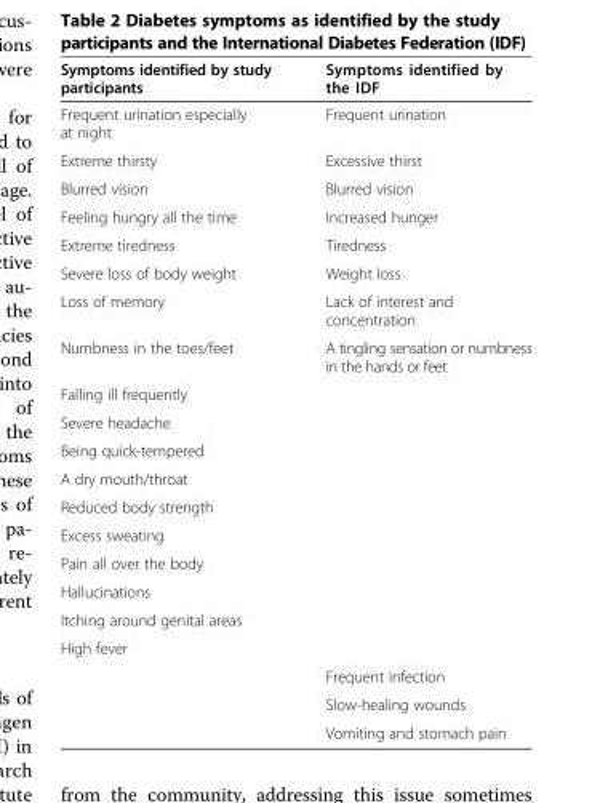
<table><thead><tr><td>Symptoms identified by study participants</td><td>Symptoms identified by the IDF</td></tr></thead><tbody><tr><td>Frequent urination especially at night</td><td>Frequent urination</td></tr><tr><td>Extreme thirsty</td><td>Excessive thirst</td></tr><tr><td>Blurred vision</td><td>Blurred vision</td></tr><tr><td>Feeling hungry all the time</td><td>Increased hunger</td></tr><tr><td>Extreme tiredness</td><td>Tiredness</td></tr><tr><td>Severe loss of body weight</td><td>Weight loss</td></tr><tr><td>Loss of memory</td><td>Lack of interest and concentration</td></tr><tr><td>Numbness in the toes/feet</td><td>A tingling sensation or numbness in the hands or feet</td></tr><tr><td colspan="2">Falling ill frequently</td></tr><tr><td colspan="2">Severe headache</td></tr><tr><td colspan="2">Being quick-tempered</td></tr><tr><td colspan="2">A dry mouth/throat</td></tr><tr><td colspan="2">Reduced body strength</td></tr><tr><td colspan="2">Excess sweating</td></tr><tr><td colspan="2">Pain all over the body</td></tr><tr><td colspan="2">Hallucinations</td></tr><tr><td colspan="2">Itching around genital areas</td></tr><tr><td colspan="2">High fever</td></tr><tr><td></td><td>Frequent infection</td></tr><tr><td></td><td>Slow-healing wounds</td></tr><tr><td></td><td>Vomiting and stomach pain</td></tr></tbody></table>